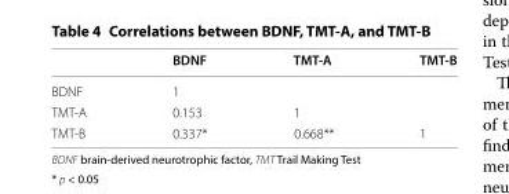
<table><thead><tr><td></td><td>BDNF</td><td>TMT-A</td><td>TMT-B</td></tr></thead><tbody><tr><td>BDNF</td><td>1</td><td></td><td></td></tr><tr><td>TMT‑A</td><td>0.153</td><td>1</td><td></td></tr><tr><td>TMT‑B</td><td>0.337*</td><td>0.668**</td><td>1</td></tr></tbody></table>